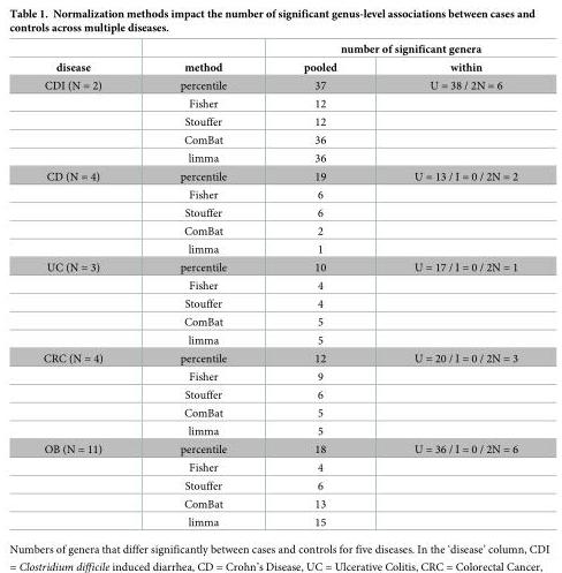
<table><thead><tr><td rowspan="2">disease</td><td rowspan="2">method</td><td colspan="2">number of significant genera</td></tr><tr><td>pooled</td><td>within</td></tr></thead><tbody><tr><td rowspan="5">CDI (N = 2)</td><td>percentile</td><td>37</td><td>U = 38 / 2N = 6</td></tr><tr><td>Fisher</td><td>12</td><td></td></tr><tr><td>Stouffer</td><td>12</td><td></td></tr><tr><td>ComBat</td><td>36</td><td></td></tr><tr><td>limma</td><td>36</td><td></td></tr><tr><td rowspan="5">CD (N = 4)</td><td>percentile</td><td>19</td><td>U = 13 / I = 0 / 2N = 2</td></tr><tr><td>Fisher</td><td>6</td><td></td></tr><tr><td>Stouffer</td><td>6</td><td></td></tr><tr><td>ComBat</td><td>2</td><td></td></tr><tr><td>limma</td><td>1</td><td></td></tr><tr><td rowspan="5">UC (N = 3)</td><td>percentile</td><td>10</td><td>U = 17 / I = 0 / 2N = 1</td></tr><tr><td>Fisher</td><td>4</td><td></td></tr><tr><td>Stouffer</td><td>4</td><td></td></tr><tr><td>ComBat</td><td>5</td><td></td></tr><tr><td>limma</td><td>5</td><td></td></tr><tr><td rowspan="5">CRC (N = 4)</td><td>percentile</td><td>12</td><td>U = 20 / I = 0 / 2N = 3</td></tr><tr><td>Fisher</td><td>9</td><td></td></tr><tr><td>Stouffer</td><td>6</td><td></td></tr><tr><td>ComBat</td><td>5</td><td></td></tr><tr><td>limma</td><td>5</td><td></td></tr><tr><td rowspan="5">OB (N = 11)</td><td>percentile</td><td>18</td><td>U = 36 / I = 0 / 2N = 6</td></tr><tr><td>Fisher</td><td>4</td><td></td></tr><tr><td>Stouffer</td><td>6</td><td></td></tr><tr><td>ComBat</td><td>13</td><td></td></tr><tr><td>limma</td><td>15</td><td></td></tr></tbody></table>